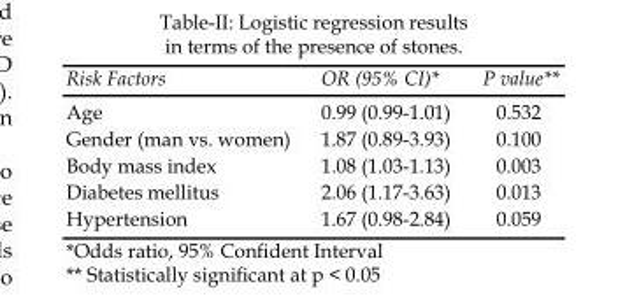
<table><thead><tr><td>Risk Factors</td><td>OR (95% CI)*</td><td>P value**</td></tr></thead><tbody><tr><td>Age</td><td>0.99 (0.99-1.01)</td><td>0.532</td></tr><tr><td>Gender (man vs. women)</td><td>1.87 (0.89-3.93)</td><td>0.100</td></tr><tr><td>Body mass index</td><td>1.08 (1.03-1.13)</td><td>0.003</td></tr><tr><td>Diabetes mellitus</td><td>2.06 (1.17-3.63)</td><td>0.013</td></tr><tr><td>Hypertension</td><td>1.67 (0.98-2.84)</td><td>0.059</td></tr></tbody></table>